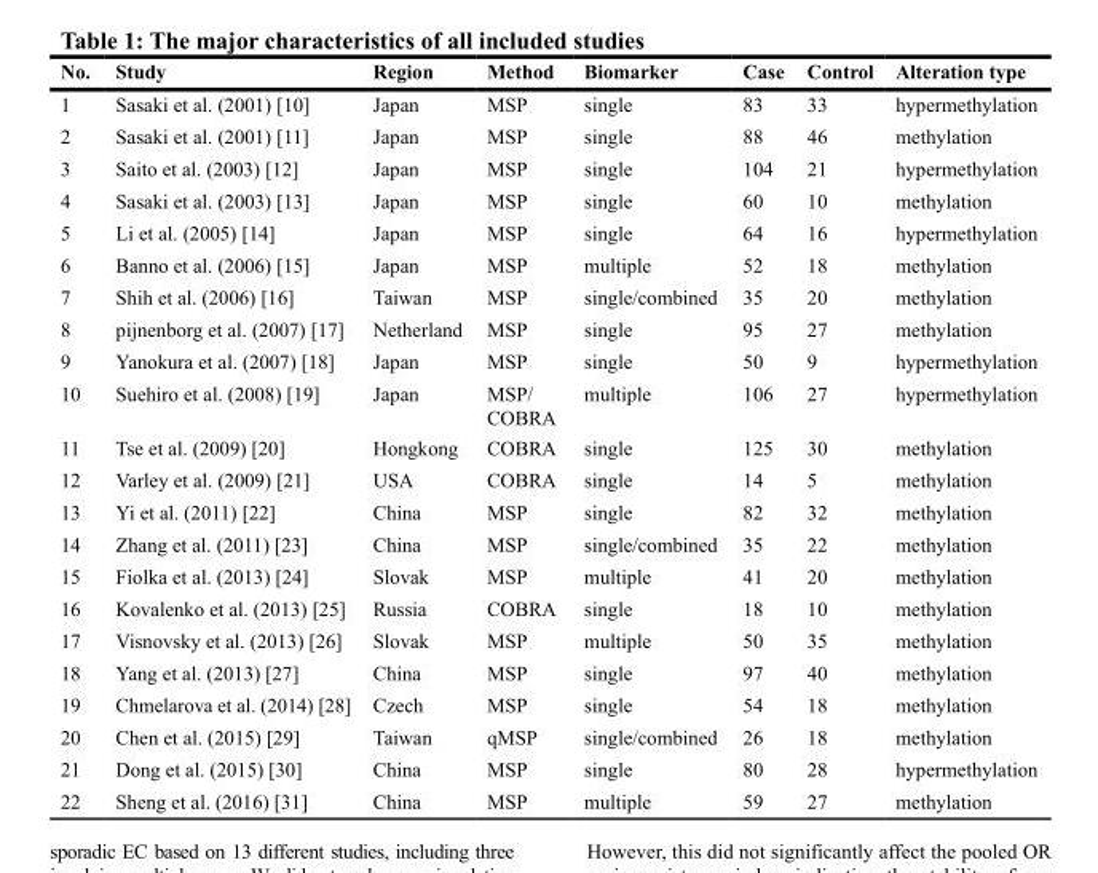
<table><thead><tr><td>No.</td><td>Study</td><td>Region</td><td>Method</td><td>Biomarker</td><td>Case</td><td>Control</td><td>Alteration type</td></tr></thead><tbody><tr><td>1</td><td>Sasaki et al. (2001) [10]</td><td>Japan</td><td>MSP</td><td>single</td><td>83</td><td>33</td><td>hypermethylation</td></tr><tr><td>2</td><td>Sasaki et al. (2001) [11]</td><td>Japan</td><td>MSP</td><td>single</td><td>88</td><td>46</td><td>methylation</td></tr><tr><td>3</td><td>Saito et al. (2003) [12]</td><td>Japan</td><td>MSP</td><td>single</td><td>104</td><td>21</td><td>hypermethylation</td></tr><tr><td>4</td><td>Sasaki et al. (2003) [13]</td><td>Japan</td><td>MSP</td><td>single</td><td>60</td><td>10</td><td>methylation</td></tr><tr><td>5</td><td>Li et al. (2005) [14]</td><td>Japan</td><td>MSP</td><td>single</td><td>64</td><td>16</td><td>hypermethylation</td></tr><tr><td>6</td><td>Banno et al. (2006) [15]</td><td>Japan</td><td>MSP</td><td>multiple</td><td>52</td><td>18</td><td>methylation</td></tr><tr><td>7</td><td>Shih et al. (2006) [16]</td><td>Taiwan</td><td>MSP</td><td>single/combined</td><td>35</td><td>20</td><td>methylation</td></tr><tr><td>8</td><td>pijnenborg et al. (2007) [17]</td><td>Netherland</td><td>MSP</td><td>single</td><td>95</td><td>27</td><td>methylation</td></tr><tr><td>9</td><td>Yanokura et al. (2007) [18]</td><td>Japan</td><td>MSP</td><td>single</td><td>50</td><td>9</td><td>hypermethylation</td></tr><tr><td>10</td><td>Suehiro et al. (2008) [19]</td><td>Japan</td><td>MSP/ COBRA</td><td>multiple</td><td>106</td><td>27</td><td>hypermethylation</td></tr><tr><td>11</td><td>Tse et al. (2009) [20]</td><td>Hongkong</td><td>COBRA</td><td>single</td><td>125</td><td>30</td><td>methylation</td></tr><tr><td>12</td><td>Varley et al. (2009) [21]</td><td>USA</td><td>COBRA</td><td>single</td><td>14</td><td>5</td><td>methylation</td></tr><tr><td>13</td><td>Yi et al. (2011) [22]</td><td>China</td><td>MSP</td><td>single</td><td>82</td><td>32</td><td>methylation</td></tr><tr><td>14</td><td>Zhang et al. (2011) [23]</td><td>China</td><td>MSP</td><td>single/combined</td><td>35</td><td>22</td><td>methylation</td></tr><tr><td>15</td><td>Fiolka et al. (2013) [24]</td><td>Slovak</td><td>MSP</td><td>multiple</td><td>41</td><td>20</td><td>methylation</td></tr><tr><td>16</td><td>Kovalenko et al. (2013) [25]</td><td>Russia</td><td>COBRA</td><td>single</td><td>18</td><td>10</td><td>methylation</td></tr><tr><td>17</td><td>Visnovsky et al. (2013) [26]</td><td>Slovak</td><td>MSP</td><td>multiple</td><td>50</td><td>35</td><td>methylation</td></tr><tr><td>18</td><td>Yang et al. (2013) [27]</td><td>China</td><td>MSP</td><td>single</td><td>97</td><td>40</td><td>methylation</td></tr><tr><td>19</td><td>Chmelarova et al. (2014) [28]</td><td>Czech</td><td>MSP</td><td>single</td><td>54</td><td>18</td><td>methylation</td></tr><tr><td>20</td><td>Chen et al. (2015) [29]</td><td>Taiwan</td><td>qMSP</td><td>single/combined</td><td>26</td><td>18</td><td>methylation</td></tr><tr><td>21</td><td>Dong et al. (2015) [30]</td><td>China</td><td>MSP</td><td>single</td><td>80</td><td>28</td><td>hypermethylation</td></tr><tr><td>22</td><td>Sheng et al. (2016) [31]</td><td>China</td><td>MSP</td><td>multiple</td><td>59</td><td>27</td><td>methylation</td></tr></tbody></table>